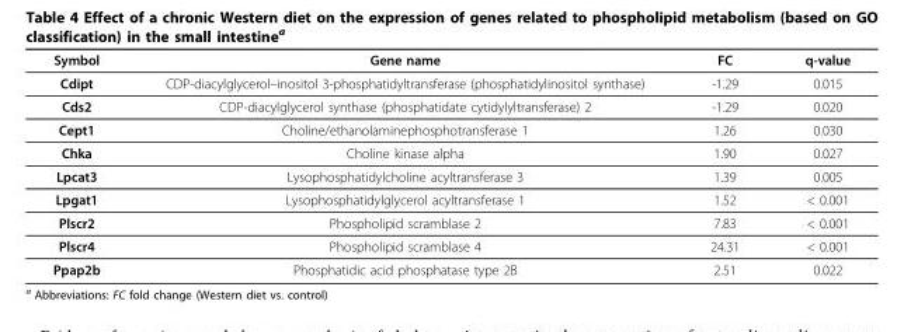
<table><thead><tr><td>Symbol</td><td>Gene name</td><td>FC</td><td>q-value</td></tr></thead><tbody><tr><td>Cdipt</td><td>CDP-diacylglycerol–inositol 3-phosphatidyltransferase (phosphatidylinositol synthase)</td><td>-1.29</td><td>0.015</td></tr><tr><td>Cds2</td><td>CDP-diacylglycerol synthase (phosphatidate cytidylyltransferase) 2</td><td>-1.29</td><td>0.020</td></tr><tr><td>Cept1</td><td>Choline/ethanolaminephosphotransferase 1</td><td>1.26</td><td>0.030</td></tr><tr><td>Chka</td><td>Choline kinase alpha</td><td>1.90</td><td>0.027</td></tr><tr><td>Lpcat3</td><td>Lysophosphatidylcholine acyltransferase 3</td><td>1.39</td><td>0.005</td></tr><tr><td>Lpgat1</td><td>Lysophosphatidylglycerol acyltransferase 1</td><td>1.52</td><td>&lt; 0.001</td></tr><tr><td>Plscr2</td><td>Phospholipid scramblase 2</td><td>7.83</td><td>&lt; 0.001</td></tr><tr><td>Plscr4</td><td>Phospholipid scramblase 4</td><td>24.31</td><td>&lt; 0.001</td></tr><tr><td>Ppap2b</td><td>Phosphatidic acid phosphatase type 2B</td><td>2.51</td><td>0.022</td></tr></tbody></table>